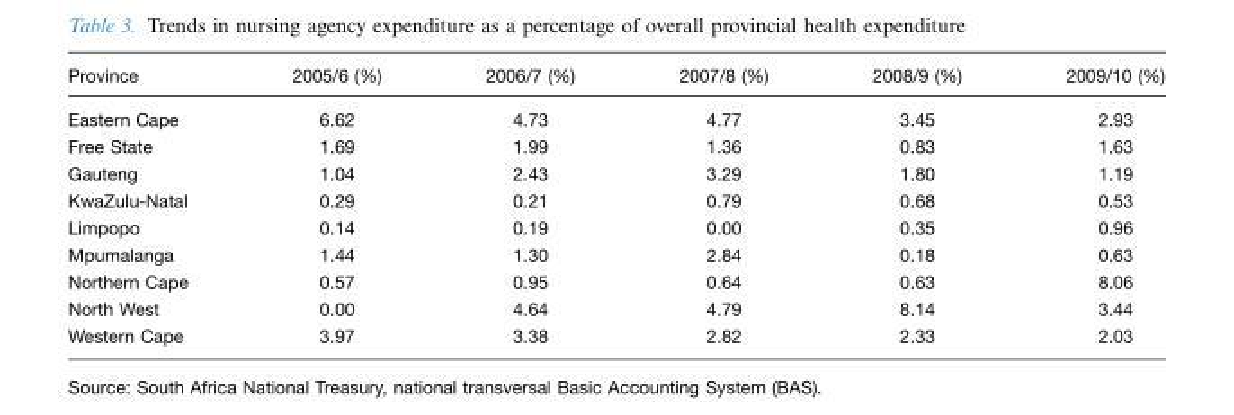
<table><thead><tr><td>Province</td><td>2005/6 (%)</td><td>2006/7 (%)</td><td>2007/8 (%)</td><td>2008/9 (%)</td><td>2009/10 (%)</td></tr></thead><tbody><tr><td>Eastern Cape</td><td>6.62</td><td>4.73</td><td>4.77</td><td>3.45</td><td>2.93</td></tr><tr><td>Free State</td><td>1.69</td><td>1.99</td><td>1.36</td><td>0.83</td><td>1.63</td></tr><tr><td>Gauteng</td><td>1.04</td><td>2.43</td><td>3.29</td><td>1.80</td><td>1.19</td></tr><tr><td>KwaZulu-Natal</td><td>0.29</td><td>0.21</td><td>0.79</td><td>0.68</td><td>0.53</td></tr><tr><td>Limpopo</td><td>0.14</td><td>0.19</td><td>0.00</td><td>0.35</td><td>0.96</td></tr><tr><td>Mpumalanga</td><td>1.44</td><td>1.30</td><td>2.84</td><td>0.18</td><td>0.63</td></tr><tr><td>Northern Cape</td><td>0.57</td><td>0.95</td><td>0.64</td><td>0.63</td><td>8.06</td></tr><tr><td>North West</td><td>0.00</td><td>4.64</td><td>4.79</td><td>8.14</td><td>3.44</td></tr><tr><td>Western Cape</td><td>3.97</td><td>3.38</td><td>2.82</td><td>2.33</td><td>2.03</td></tr></tbody></table>